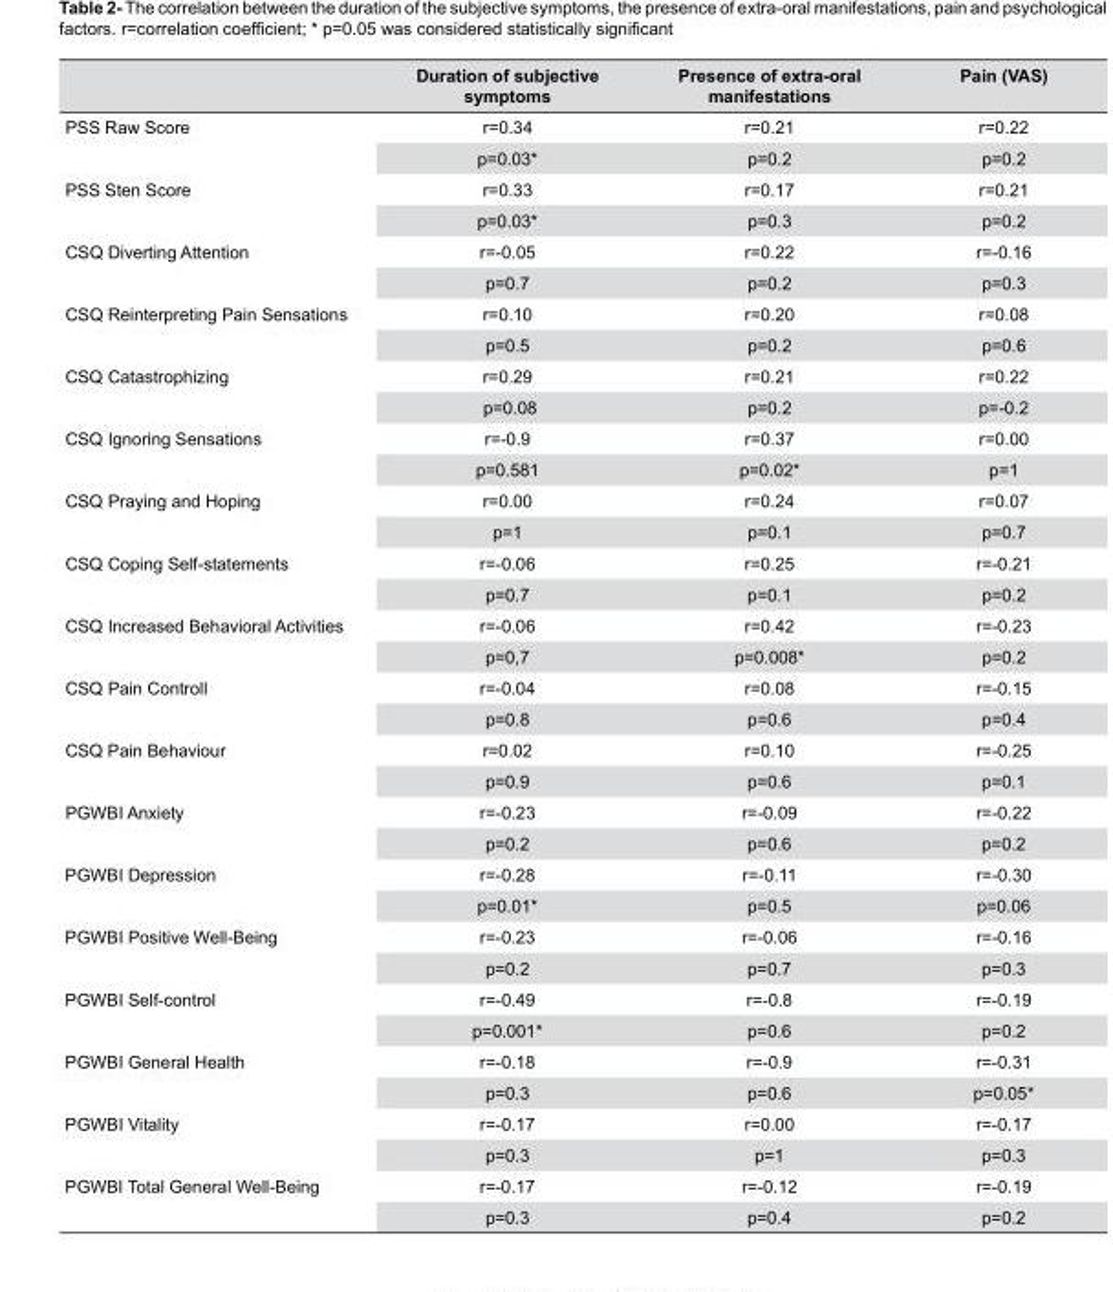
<table><thead><tr><td></td><td>Duration of subjective symptoms</td><td>Presence of extra-oral manifestations</td><td>Pain (VAS)</td></tr></thead><tbody><tr><td rowspan="2">PSS Raw Score</td><td>r=0.34</td><td>r=0.21</td><td>r=0.22</td></tr><tr><td>p=0.03*</td><td>p=0.2</td><td>p=0.2</td></tr><tr><td rowspan="2">PSS Sten Score</td><td>r=0.33</td><td>r=0.17</td><td>r=0.21</td></tr><tr><td>p=0.03*</td><td>p=0.3</td><td>p=0.2</td></tr><tr><td rowspan="2">CSQ Diverting Attention</td><td>r=-0.05</td><td>r=0.22</td><td>r=-0.16</td></tr><tr><td>p=0.7</td><td>p=0.2</td><td>p=0.3</td></tr><tr><td rowspan="2">CSQ Reinterpreting Pain Sensations</td><td>r=0.10</td><td>r=0.20</td><td>r=0.08</td></tr><tr><td>p=0.5</td><td>p=0.2</td><td>p=0.6</td></tr><tr><td rowspan="2">CSQ Catastrophizing</td><td>r=0.29</td><td>r=0.21</td><td>r=0.22</td></tr><tr><td>p=0.08</td><td>p=0.2</td><td>p=-0.2</td></tr><tr><td rowspan="2">CSQ Ignoring Sensations</td><td>r=-0.9</td><td>r=0.37</td><td>r=0.00</td></tr><tr><td>p=0.581</td><td>p=0.02*</td><td>p=1</td></tr><tr><td rowspan="2">CSQ Praying and Hoping</td><td>r=0.00</td><td>r=0.24</td><td>r=0.07</td></tr><tr><td>p=1</td><td>p=0.1</td><td>p=0.7</td></tr><tr><td rowspan="2">CSQ Coping Self-statements</td><td>r=-0.06</td><td>r=0.25</td><td>r=-0.21</td></tr><tr><td>p=0.7</td><td>p=0.1</td><td>p=0.2</td></tr><tr><td rowspan="2">CSQ Increased Behavioral Activities</td><td>r=-0.06</td><td>r=0.42</td><td>r=-0.23</td></tr><tr><td>p=0,7</td><td>p=0.008*</td><td>p=0.2</td></tr><tr><td rowspan="2">CSQ Pain Controll</td><td>r=-0.04</td><td>r=0.08</td><td>r=-0.15</td></tr><tr><td>p=0.8</td><td>p=0.6</td><td>p=0.4</td></tr><tr><td rowspan="2">CSQ Pain Behaviour</td><td>r=0.02</td><td>r=0.10</td><td>r=-0.25</td></tr><tr><td>p=0.9</td><td>p=0.6</td><td>p=0.1</td></tr><tr><td rowspan="2">PGWBI Anxiety</td><td>r=-0.23</td><td>r=-0.09</td><td>r=-0.22</td></tr><tr><td>p=0.2</td><td>p=0.6</td><td>p=0.2</td></tr><tr><td rowspan="2">PGWBI Depression</td><td>r=-0.28</td><td>r=-0.11</td><td>r=-0.30</td></tr><tr><td>p=0.01*</td><td>p=0.5</td><td>p=0.06</td></tr><tr><td rowspan="2">PGWBI Positive Well-Being</td><td>r=-0.23</td><td>r=-0.06</td><td>r=-0.16</td></tr><tr><td>p=0.2</td><td>p=0.7</td><td>p=0.3</td></tr><tr><td rowspan="2">PGWBI Self-control</td><td>r=-0.49</td><td>r=-0.8</td><td>r=-0.19</td></tr><tr><td>p=0.001*</td><td>p=0.6</td><td>p=0.2</td></tr><tr><td rowspan="2">PGWBI General Health</td><td>r=-0.18</td><td>r=-0.9</td><td>r=-0.31</td></tr><tr><td>p=0.3</td><td>p=0.6</td><td>p=0.05*</td></tr><tr><td rowspan="2">PGWBI Vitality</td><td>r=-0.17</td><td>r=0.00</td><td>r=-0.17</td></tr><tr><td>p=0.3</td><td>p=1</td><td>p=0.3</td></tr><tr><td rowspan="2">PGWBI Total General Well-Being</td><td>r=-0.17</td><td>r=-0.12</td><td>r=-0.19</td></tr><tr><td>p=0.3</td><td>p=0.4</td><td>p=0.2</td></tr></tbody></table>